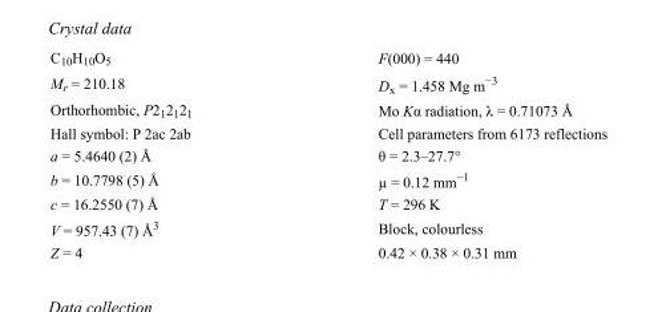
<table><tbody><tr><td>C<sub>10</sub>H<sub>10</sub>O<sub>5</sub></td><td>F(000) = 440</td></tr><tr><td>M<sub>r</sub> = 210.18</td><td>D<sub>x</sub> = 1.458 Mg m<sup>−3</sup></td></tr><tr><td>Orthorhombic, P2<sub>1</sub>2<sub>1</sub>2<sub>1</sub></td><td>Mo Kα radiation, λ = 0.71073 Å</td></tr><tr><td>Hall symbol: P 2ac 2ab</td><td>Cell parameters from 6173 reflections</td></tr><tr><td>a = 5.4640 (2) Å</td><td>θ = 2.3–27.7°</td></tr><tr><td>b = 10.7798 (5) Å</td><td>µ = 0.12 mm<sup>−1</sup></td></tr><tr><td>c = 16.2550 (7) Å</td><td>T = 296 K</td></tr><tr><td>V = 957.43 (7) Å<sup>3</sup></td><td>Block, colourless</td></tr><tr><td>Z = 4</td><td>0.42 × 0.38 × 0.31 mm</td></tr></tbody></table>